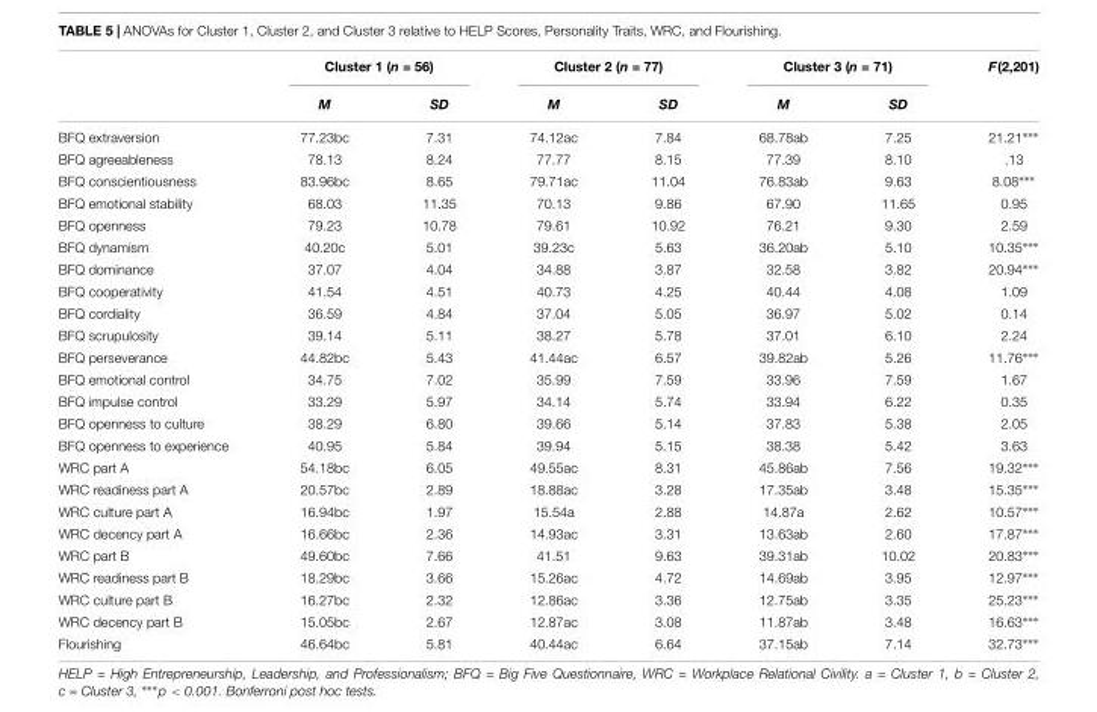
<table><thead><tr><td rowspan="2"></td><td colspan="2">Cluster 1 (n = 56)</td><td colspan="2">Cluster 2 (n = 77)</td><td colspan="2">Cluster 3 (n = 71)</td><td rowspan="2">F(2,201)</td></tr><tr><td>M</td><td>SD</td><td>M</td><td>SD</td><td>M</td><td>SD</td></tr></thead><tbody><tr><td>BFQ extraversion</td><td>77.23bc</td><td>7.31</td><td>74.12ac</td><td>7.84</td><td>68.78ab</td><td>7.25</td><td>21.21∗∗∗</td></tr><tr><td>BFQ agreeableness</td><td>78.13</td><td>8.24</td><td>77.77</td><td>8.15</td><td>77.39</td><td>8.10</td><td>.13</td></tr><tr><td>BFQ conscientiousness</td><td>83.96bc</td><td>8.65</td><td>79.71ac</td><td>11.04</td><td>76.83ab</td><td>9.63</td><td>8.08∗∗∗</td></tr><tr><td>BFQ emotional stability</td><td>68.03</td><td>11.35</td><td>70.13</td><td>9.86</td><td>67.90</td><td>11.65</td><td>0.95</td></tr><tr><td>BFQ openness</td><td>79.23</td><td>10.78</td><td>79.61</td><td>10.92</td><td>76.21</td><td>9.30</td><td>2.59</td></tr><tr><td>BFQ dynamism</td><td>40.20c</td><td>5.01</td><td>39.23c</td><td>5.63</td><td>36.20ab</td><td>5.10</td><td>10.35∗∗∗</td></tr><tr><td>BFQ dominance</td><td>37.07</td><td>4.04</td><td>34.88</td><td>3.87</td><td>32.58</td><td>3.82</td><td>20.94∗∗∗</td></tr><tr><td>BFQ cooperativity</td><td>41.54</td><td>4.51</td><td>40.73</td><td>4.25</td><td>40.44</td><td>4.08</td><td>1.09</td></tr><tr><td>BFQ cordiality</td><td>36.59</td><td>4.84</td><td>37.04</td><td>5.05</td><td>36.97</td><td>5.02</td><td>0.14</td></tr><tr><td>BFQ scrupulosity</td><td>39.14</td><td>5.11</td><td>38.27</td><td>5.78</td><td>37.01</td><td>6.10</td><td>2.24</td></tr><tr><td>BFQ perseverance</td><td>44.82bc</td><td>5.43</td><td>41.44ac</td><td>6.57</td><td>39.82ab</td><td>5.26</td><td>11.76∗∗∗</td></tr><tr><td>BFQ emotional control</td><td>34.75</td><td>7.02</td><td>35.99</td><td>7.59</td><td>33.96</td><td>7.59</td><td>1.67</td></tr><tr><td>BFQ impulse control</td><td>33.29</td><td>5.97</td><td>34.14</td><td>5.74</td><td>33.94</td><td>6.22</td><td>0.35</td></tr><tr><td>BFQ openness to culture</td><td>38.29</td><td>6.80</td><td>39.66</td><td>5.14</td><td>37.83</td><td>5.38</td><td>2.05</td></tr><tr><td>BFQ openness to experience</td><td>40.95</td><td>5.84</td><td>39.94</td><td>5.15</td><td>38.38</td><td>5.42</td><td>3.63</td></tr><tr><td>WRC part A</td><td>54.18bc</td><td>6.05</td><td>49.55ac</td><td>8.31</td><td>45.86ab</td><td>7.56</td><td>19.32∗∗∗</td></tr><tr><td>WRC readiness part A</td><td>20.57bc</td><td>2.89</td><td>18.88ac</td><td>3.28</td><td>17.35ab</td><td>3.48</td><td>15.35∗∗∗</td></tr><tr><td>WRC culture part A</td><td>16.94bc</td><td>1.97</td><td>15.54a</td><td>2.88</td><td>14.87a</td><td>2.62</td><td>10.57∗∗∗</td></tr><tr><td>WRC decency part A</td><td>16.66bc</td><td>2.36</td><td>14.93ac</td><td>3.31</td><td>13.63ab</td><td>2.60</td><td>17.87∗∗∗</td></tr><tr><td>WRC part B</td><td>49.60bc</td><td>7.66</td><td>41.51</td><td>9.63</td><td>39.31ab</td><td>10.02</td><td>20.83∗∗∗</td></tr><tr><td>WRC readiness part B</td><td>18.29bc</td><td>3.66</td><td>15.26ac</td><td>4.72</td><td>14.69ab</td><td>3.95</td><td>12.97∗∗∗</td></tr><tr><td>WRC culture part B</td><td>16.27bc</td><td>2.32</td><td>12.86ac</td><td>3.36</td><td>12.75ab</td><td>3.35</td><td>25.23∗∗∗</td></tr><tr><td>WRC decency part B</td><td>15.05bc</td><td>2.67</td><td>12.87ac</td><td>3.08</td><td>11.87ab</td><td>3.48</td><td>16.63∗∗∗</td></tr><tr><td>Flourishing</td><td>46.64bc</td><td>5.81</td><td>40.44ac</td><td>6.64</td><td>37.15ab</td><td>7.14</td><td>32.73∗∗∗</td></tr></tbody></table>